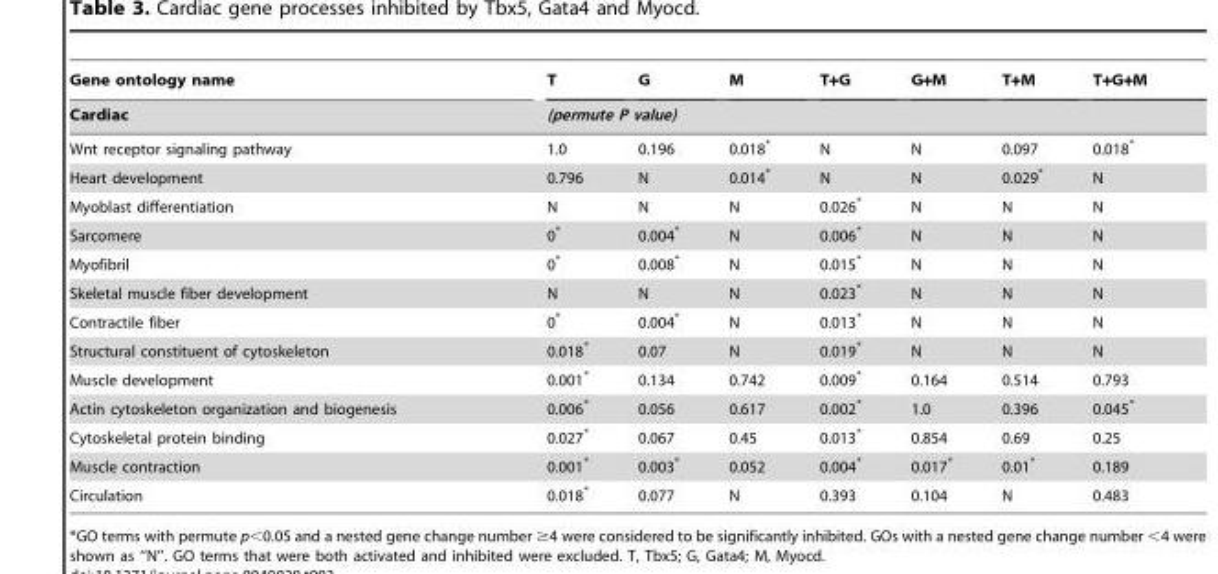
<table><thead><tr><td rowspan="2">Gene ontology name Cardiac</td><td>T</td><td>G</td><td>M</td><td>T+G</td><td>G+M</td><td>T+M</td><td>T+G+M</td></tr><tr><td colspan="7">(permute P value)</td></tr></thead><tbody><tr><td>Wnt receptor signaling pathway</td><td>1.0</td><td>0.196</td><td>0.018*</td><td>N</td><td>N</td><td>0.097</td><td>0.018*</td></tr><tr><td>Heart development</td><td>0.796</td><td>N</td><td>0.014*</td><td>N</td><td>N</td><td>0.029*</td><td>N</td></tr><tr><td>Myoblast differentiation</td><td>N</td><td>N</td><td>N</td><td>0.026*</td><td>N</td><td>N</td><td>N</td></tr><tr><td>Sarcomere</td><td>0*</td><td>0.004*</td><td>N</td><td>0.006*</td><td>N</td><td>N</td><td>N</td></tr><tr><td>Myofibril</td><td>0*</td><td>0.008*</td><td>N</td><td>0.015*</td><td>N</td><td>N</td><td>N</td></tr><tr><td>Skeletal muscle fiber development</td><td>N</td><td>N</td><td>N</td><td>0.023*</td><td>N</td><td>N</td><td>N</td></tr><tr><td>Contractile fiber</td><td>0*</td><td>0.004*</td><td>N</td><td>0.013*</td><td>N</td><td>N</td><td>N</td></tr><tr><td>Structural constituent of cytoskeleton</td><td>0.018*</td><td>0.07</td><td>N</td><td>0.019*</td><td>N</td><td>N</td><td>N</td></tr><tr><td>Muscle development</td><td>0.001*</td><td>0.134</td><td>0.742</td><td>0.009*</td><td>0.164</td><td>0.514</td><td>0.793</td></tr><tr><td>Actin cytoskeleton organization and biogenesis</td><td>0.006*</td><td>0.056</td><td>0.617</td><td>0.002*</td><td>1.0</td><td>0.396</td><td>0.045*</td></tr><tr><td>Cytoskeletal protein binding</td><td>0.027*</td><td>0.067</td><td>0.45</td><td>0.013*</td><td>0.854</td><td>0.69</td><td>0.25</td></tr><tr><td>Muscle contraction</td><td>0.001*</td><td>0.003*</td><td>0.052</td><td>0.004*</td><td>0.017*</td><td>0.01*</td><td>0.189</td></tr><tr><td>Circulation</td><td>0.018*</td><td>0.077</td><td>N</td><td>0.393</td><td>0.104</td><td>N</td><td>0.483</td></tr></tbody></table>